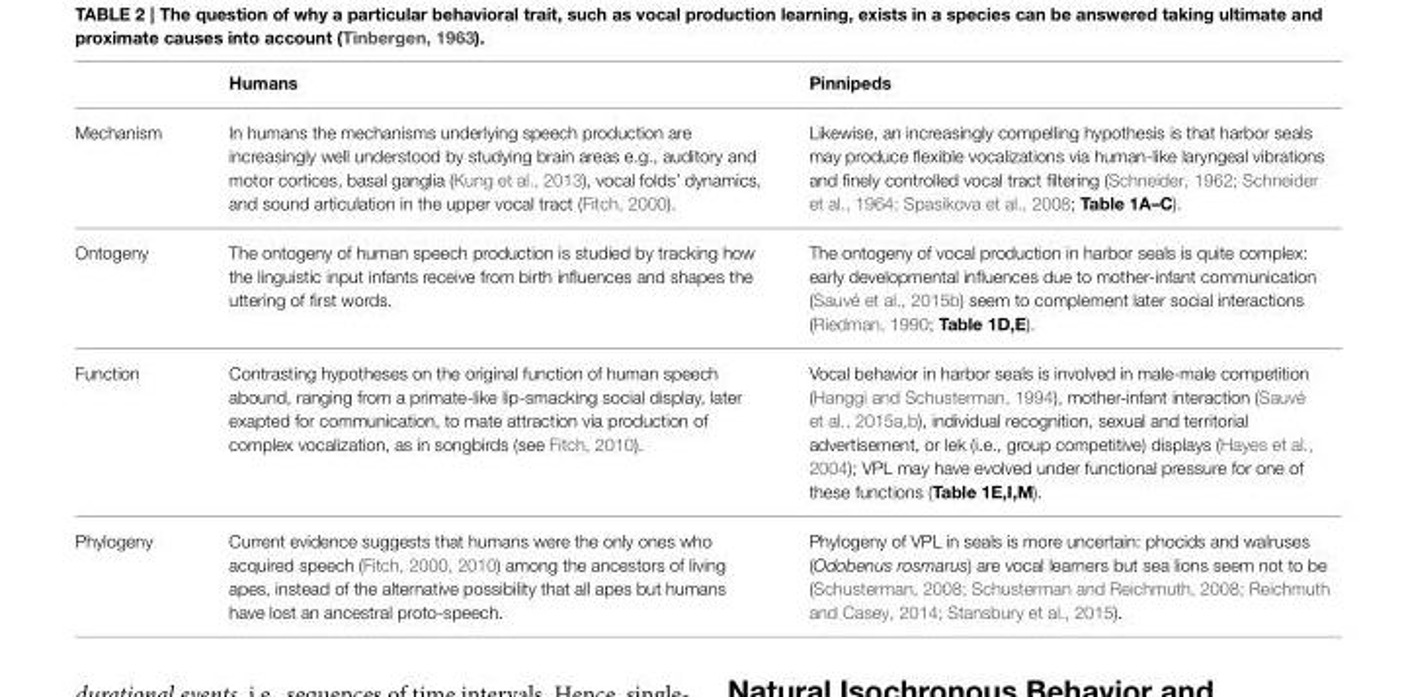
<table><thead><tr><td></td><td>Humans</td><td>Pinnipeds</td></tr></thead><tbody><tr><td>Mechanism</td><td>In humans the mechanisms underlying speech production are increasingly well understood by studying brain areas e.g., auditory and motor cortices, basal ganglia (Kung et al., 2013), vocal folds’ dynamics, and sound articulation in the upper vocal tract (Fitch, 2000).</td><td>Likewise, an increasingly compelling hypothesis is that harbor seals may produce flexible vocalizations via human-like laryngeal vibrations and finely controlled vocal tract filtering (Schneider, 1962; Schneider et al., 1964; Spasikova et al., 2008; Table 1A–C).</td></tr><tr><td>Ontogeny</td><td>The ontogeny of human speech production is studied by tracking how the linguistic input infants receive from birth influences and shapes the uttering of first words.</td><td>The ontogeny of vocal production in harbor seals is quite complex: early developmental influences due to mother-infant communication (Sauvé et al., 2015b) seem to complement later social interactions (Riedman, 1990; Table 1D,E).</td></tr><tr><td>Function</td><td>Contrasting hypotheses on the original function of human speech abound, ranging from a primate-like lip-smacking social display, later exapted for communication, to mate attraction via production of complex vocalization, as in songbirds (see Fitch, 2010).</td><td>Vocal behavior in harbor seals is involved in male-male competition (Hanggi and Schusterman, 1994), mother-infant interaction (Sauvé et al., 2015a,b), individual recognition, sexual and territorial advertisement, or lek (i.e., group competitive) displays (Hayes et al., 2004); VPL may have evolved under functional pressure for one of these functions (Table 1E,I,M).</td></tr><tr><td>Phylogeny</td><td>Current evidence suggests that humans were the only ones who acquired speech (Fitch, 2000, 2010) among the ancestors of living apes, instead of the alternative possibility that all apes but humans have lost an ancestral proto-speech.</td><td>Phylogeny of VPL in seals is more uncertain: phocids and walruses (Odobenus rosmarus) are vocal learners but sea lions seem not to be (Schusterman, 2008; Schusterman and Reichmuth, 2008; Reichmuth and Casey, 2014; Stansbury et al., 2015).</td></tr></tbody></table>